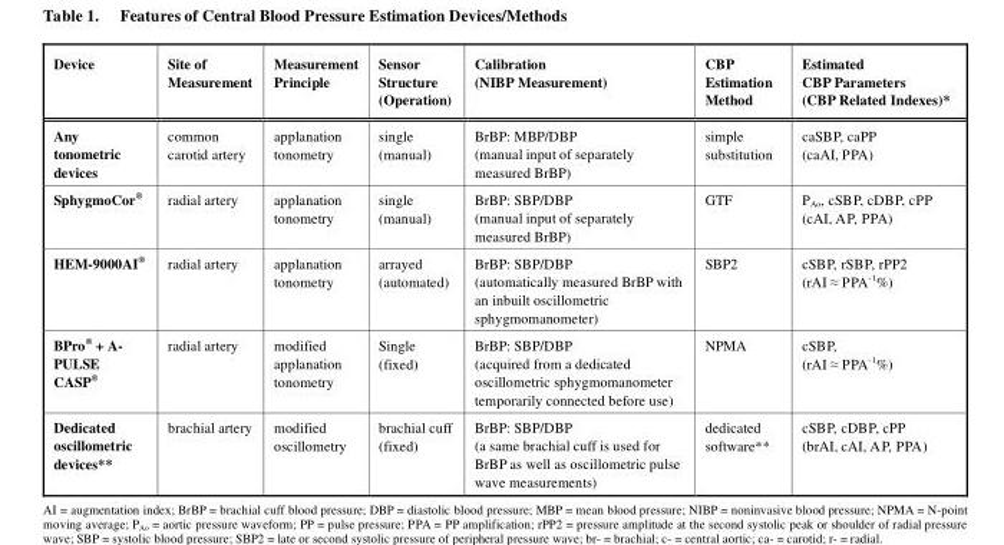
<table><thead><tr><td>Device</td><td>Site of Measurement</td><td>Measurement Principle</td><td>Sensor Structure (Operation)</td><td>Calibration (NIBP Measurement)</td><td>CBP Estimation Method</td><td>Estimated CBP Parameters (CBP Related Indexes)*</td></tr></thead><tbody><tr><td>Any tonometric devices</td><td>common carotid artery</td><td>applanation tonometry</td><td>single (manual)</td><td>BrBP: MBP/DBP (manual input of separately measured BrBP)</td><td>simple substitution</td><td>caSBP, caPP (caAI, PPA)</td></tr><tr><td>SphygmoCor<sup>®</sup></td><td>radial artery</td><td>applanation tonometry</td><td>single (manual)</td><td>BrBP: SBP/DBP (manual input of separately measured BrBP)</td><td>GTF</td><td>P<sub>Ao</sub>, cSBP, cDBP, cPP (cAI, AP, PPA)</td></tr><tr><td>HEM-9000AI<sup>®</sup></td><td>radial artery</td><td>applanation tonometry</td><td>arrayed (automated)</td><td>BrBP: SBP/DBP (automatically measured BrBP with an inbuilt oscillometric sphygmomanometer)</td><td>SBP2</td><td>cSBP, rSBP, rPP2 (rAI ≈ PPA<sup>-1</sup>%)</td></tr><tr><td>BPro<sup>®</sup> + A- PULSE CASP<sup>®</sup></td><td>radial artery</td><td>modified applanation tonometry</td><td>Single (fixed)</td><td>BrBP: SBP/DBP (acquired from a dedicated oscillometric sphygmomanometer temporarily connected before use)</td><td>NPMA</td><td>cSBP, (rAI ≈ PPA<sup>-1</sup>%)</td></tr><tr><td>Dedicated oscillometric devices**</td><td>brachial artery</td><td>modified oscillometry</td><td>brachial cuff (fixed)</td><td>BrBP: SBP/DBP (a same brachial cuff is used for BrBP as well as oscillometric pulse wave measurements)</td><td>dedicated software**</td><td>cSBP, cDBP, cPP (brAI, cAI, AP, PPA)</td></tr></tbody></table>